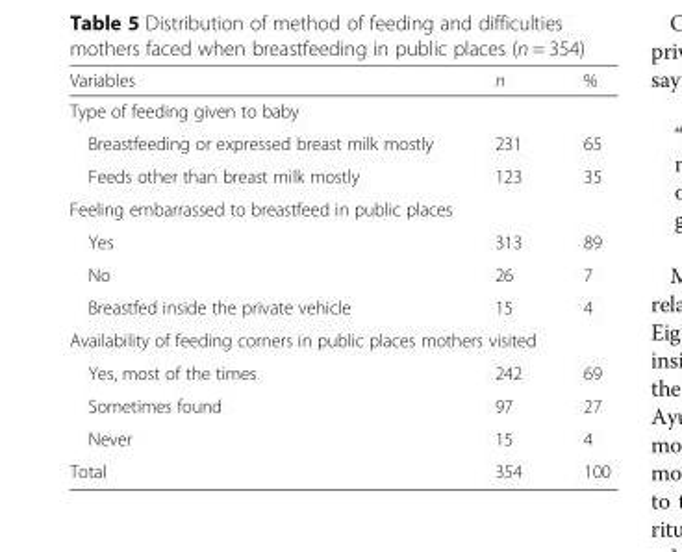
<table><thead><tr><td>Variables</td><td>n</td><td>%</td></tr></thead><tbody><tr><td colspan="3">Type of feeding given to baby</td></tr><tr><td>Breastfeeding or expressed breast milk mostly</td><td>231</td><td>65</td></tr><tr><td>Feeds other than breast milk mostly</td><td>123</td><td>35</td></tr><tr><td colspan="3">Feeling embarrassed to breastfeed in public places</td></tr><tr><td>Yes</td><td>313</td><td>89</td></tr><tr><td>No</td><td>26</td><td>7</td></tr><tr><td>Breastfed inside the private vehicle</td><td>15</td><td>4</td></tr><tr><td colspan="3">Availability of feeding corners in public places mothers visited</td></tr><tr><td>Yes, most of the times</td><td>242</td><td>69</td></tr><tr><td>Sometimes found</td><td>97</td><td>27</td></tr><tr><td>Never</td><td>15</td><td>4</td></tr><tr><td>Total</td><td>354</td><td>100</td></tr></tbody></table>